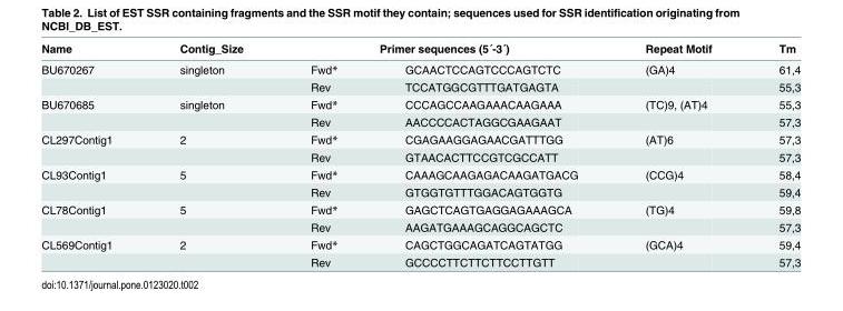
<table><thead><tr><td rowspan="2">Name BU670267</td><td rowspan="2">Contig_Size singleton</td><td colspan="2">Primer sequences (5´-3´)</td><td rowspan="2">Repeat Motif (GA)4</td><td rowspan="2">Tm 61,4</td></tr><tr><td>Fwd*</td><td>GCAACTCCAGTCCCAGTCTC</td></tr></thead><tbody><tr><td></td><td></td><td>Rev</td><td>TCCATGGCGTTTGATGAGTA</td><td></td><td>55,3</td></tr><tr><td rowspan="2">BU670685</td><td>singleton</td><td>Fwd*</td><td>CCCAGCCAAGAAACAAGAAA</td><td>(TC)9, (AT)4</td><td>55,3</td></tr><tr><td></td><td>Rev</td><td>AACCCCACTAGGCGAAGAAT</td><td></td><td>57,3</td></tr><tr><td rowspan="2">CL297Contig1</td><td>2</td><td>Fwd*</td><td>CGAGAAGGAGAACGATTTGG</td><td>(AT)6</td><td>57,3</td></tr><tr><td></td><td>Rev</td><td>GTAACACTTCCGTCGCCATT</td><td></td><td>57,3</td></tr><tr><td rowspan="2">CL93Contig1</td><td>5</td><td>Fwd*</td><td>CAAAGCAAGAGACAAGATGACG</td><td>(CCG)4</td><td>58,4</td></tr><tr><td></td><td>Rev</td><td>GTGGTGTTTGGACAGTGGTG</td><td></td><td>59,4</td></tr><tr><td rowspan="2">CL78Contig1</td><td>5</td><td>Fwd*</td><td>GAGCTCAGTGAGGAGAAAGCA</td><td>(TG)4</td><td>59,8</td></tr><tr><td></td><td>Rev</td><td>AAGATGAAAGCAGGCAGCTC</td><td></td><td>57,3</td></tr><tr><td rowspan="2">CL569Contig1</td><td>2</td><td>Fwd*</td><td>CAGCTGGCAGATCAGTATGG</td><td>(GCA)4</td><td>59,4</td></tr><tr><td></td><td>Rev</td><td>GCCCCTTCTTCTTCCTTGTT</td><td></td><td>57,3</td></tr></tbody></table>